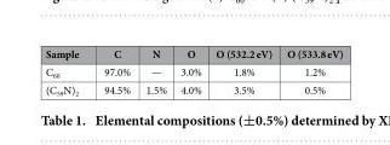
<table><thead><tr><td>Sample</td><td>C</td><td>N</td><td>O</td><td>O (532.2 eV)</td><td>O (533.8 eV)</td></tr></thead><tbody><tr><td>C<sub>60</sub></td><td>97.0%</td><td>—</td><td>3.0%</td><td>1.8%</td><td>1.2%</td></tr><tr><td>(C<sub>59</sub>N)<sub>2</sub></td><td>94.5%</td><td>1.5%</td><td>4.0%</td><td>3.5%</td><td>0.5%</td></tr></tbody></table>